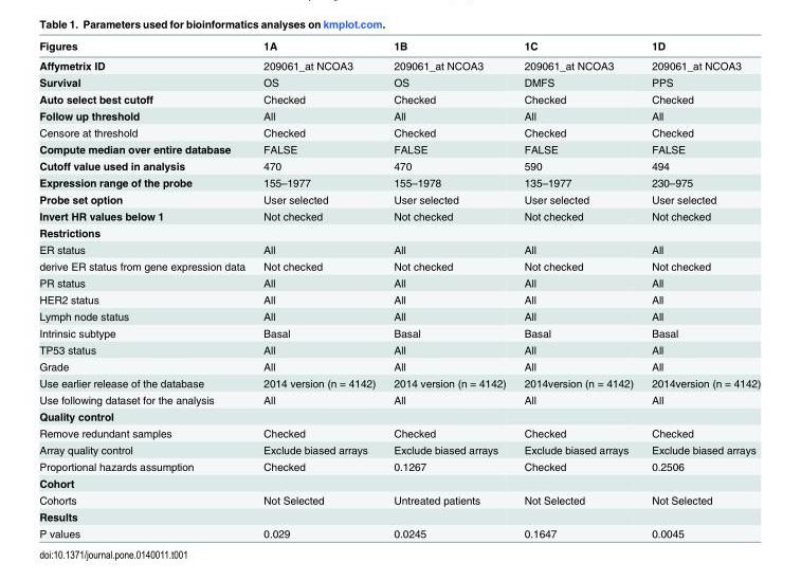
<table><thead><tr><td>Figures</td><td>1A</td><td>1B</td><td>1C</td><td>1D</td></tr></thead><tbody><tr><td>Affymetrix ID</td><td>209061_at NCOA3</td><td>209061_at NCOA3</td><td>209061_at NCOA3</td><td>209061_at NCOA3</td></tr><tr><td>Survival</td><td>OS</td><td>OS</td><td>DMFS</td><td>PPS</td></tr><tr><td>Auto select best cutoff</td><td>Checked</td><td>Checked</td><td>Checked</td><td>Checked</td></tr><tr><td>Follow up threshold</td><td>All</td><td>All</td><td>All</td><td>All</td></tr><tr><td>Censore at threshold</td><td>Checked</td><td>Checked</td><td>Checked</td><td>Checked</td></tr><tr><td>Compute median over entire database</td><td>FALSE</td><td>FALSE</td><td>FALSE</td><td>FALSE</td></tr><tr><td>Cutoff value used in analysis</td><td>470</td><td>470</td><td>590</td><td>494</td></tr><tr><td>Expression range of the probe</td><td>155–1977</td><td>155–1978</td><td>135–1977</td><td>230–975</td></tr><tr><td>Probe set option</td><td>User selected</td><td>User selected</td><td>User selected</td><td>User selected</td></tr><tr><td>Invert HR values below 1</td><td>Not checked</td><td>Not checked</td><td>Not checked</td><td>Not checked</td></tr><tr><td colspan="5">Restrictions</td></tr><tr><td>ER status</td><td>All</td><td>All</td><td>All</td><td>All</td></tr><tr><td>derive ER status from gene expression data</td><td>Not checked</td><td>Not checked</td><td>Not checked</td><td>Not checked</td></tr><tr><td>PR status</td><td>All</td><td>All</td><td>All</td><td>All</td></tr><tr><td>HER2 status</td><td>All</td><td>All</td><td>All</td><td>All</td></tr><tr><td>Lymph node status</td><td>All</td><td>All</td><td>All</td><td>All</td></tr><tr><td>Intrinsic subtype</td><td>Basal</td><td>Basal</td><td>Basal</td><td>Basal</td></tr><tr><td>TP53 status</td><td>All</td><td>All</td><td>All</td><td>All</td></tr><tr><td>Grade</td><td>All</td><td>All</td><td>All</td><td>All</td></tr><tr><td>Use earlier release of the database</td><td>2014 version (n = 4142)</td><td>2014 version (n = 4142)</td><td>2014version (n = 4142)</td><td>2014version (n = 4142)</td></tr><tr><td>Use following dataset for the analysis</td><td>All</td><td>All</td><td>All</td><td>All</td></tr><tr><td colspan="5">Quality control</td></tr><tr><td>Remove redundant samples</td><td>Checked</td><td>Checked</td><td>Checked</td><td>Checked</td></tr><tr><td>Array quality control</td><td>Exclude biased arrays</td><td>Exclude biased arrays</td><td>Exclude biased arrays</td><td>Exclude biased arrays</td></tr><tr><td>Proportional hazards assumption</td><td>Checked</td><td>0.1267</td><td>Checked</td><td>0.2506</td></tr><tr><td colspan="5">Cohort</td></tr><tr><td>Cohorts</td><td>Not Selected</td><td>Untreated patients</td><td>Not Selected</td><td>Not Selected</td></tr><tr><td colspan="5">Results</td></tr><tr><td>P values</td><td>0.029</td><td>0.0245</td><td>0.1647</td><td>0.0045</td></tr></tbody></table>